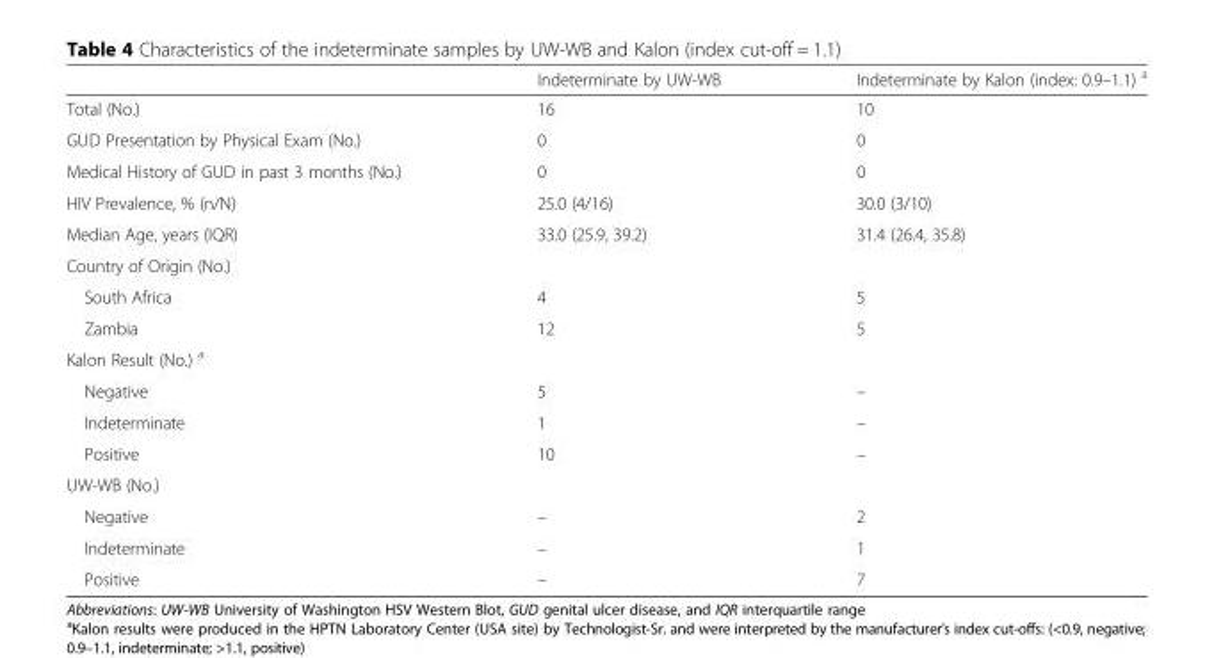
<table><thead><tr><td></td><td>Indeterminate by UW-WB</td><td>Indeterminate by Kalon (index: 0.9–1.1) <sup>a</sup></td></tr></thead><tbody><tr><td>Total (No.)</td><td>16</td><td>10</td></tr><tr><td>GUD Presentation by Physical Exam (No.)</td><td>0</td><td>0</td></tr><tr><td>Medical History of GUD in past 3 months (No.)</td><td>0</td><td>0</td></tr><tr><td>HIV Prevalence, % (n/N)</td><td>25.0 (4/16)</td><td>30.0 (3/10)</td></tr><tr><td>Median Age, years (IQR)</td><td>33.0 (25.9, 39.2)</td><td>31.4 (26.4, 35.8)</td></tr><tr><td colspan="3">Country of Origin (No.)</td></tr><tr><td>South Africa</td><td>4</td><td>5</td></tr><tr><td>Zambia</td><td>12</td><td>5</td></tr><tr><td colspan="3">Kalon Result (No.) <sup>a</sup></td></tr><tr><td>Negative</td><td>5</td><td>–</td></tr><tr><td>Indeterminate</td><td>1</td><td>–</td></tr><tr><td>Positive</td><td>10</td><td>–</td></tr><tr><td colspan="3">UW-WB (No.)</td></tr><tr><td>Negative</td><td>–</td><td>2</td></tr><tr><td>Indeterminate</td><td>–</td><td>1</td></tr><tr><td>Positive</td><td>–</td><td>7</td></tr></tbody></table>